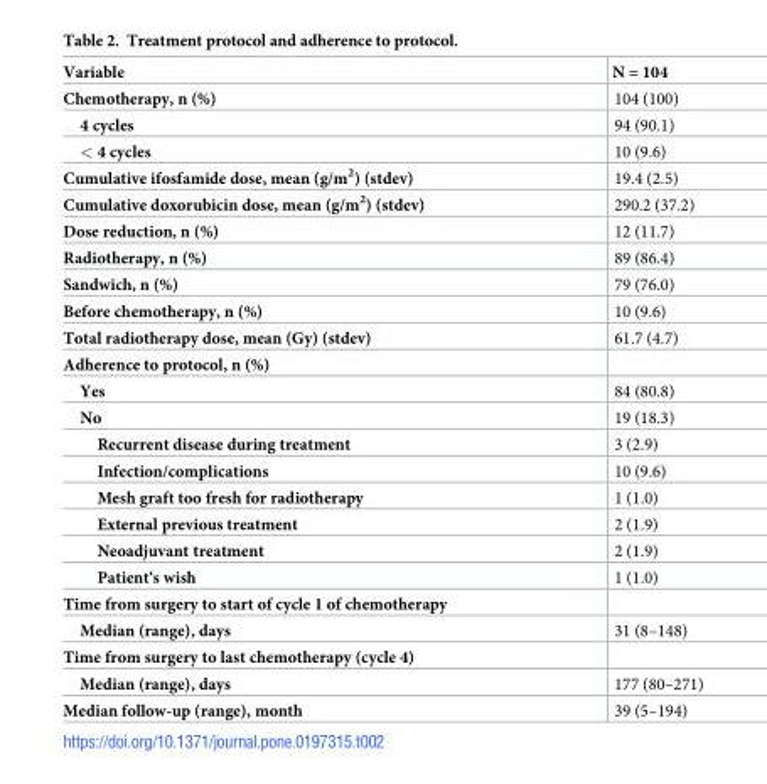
<table><thead><tr><td>Variable</td><td>N = 104</td></tr></thead><tbody><tr><td>Chemotherapy, n (%)</td><td>104 (100)</td></tr><tr><td>4 cycles</td><td>94 (90.1)</td></tr><tr><td>&lt; 4 cycles</td><td>10 (9.6)</td></tr><tr><td>Cumulative ifosfamide dose, mean (g/m<sup>2</sup>) (stdev)</td><td>19.4 (2.5)</td></tr><tr><td>Cumulative doxorubicin dose, mean (g/m<sup>2</sup>) (stdev)</td><td>290.2 (37.2)</td></tr><tr><td>Dose reduction, n (%)</td><td>12 (11.7)</td></tr><tr><td>Radiotherapy, n (%)</td><td>89 (86.4)</td></tr><tr><td>Sandwich, n (%)</td><td>79 (76.0)</td></tr><tr><td>Before chemotherapy, n (%)</td><td>10 (9.6)</td></tr><tr><td>Total radiotherapy dose, mean (Gy) (stdev)</td><td>61.7 (4.7)</td></tr><tr><td colspan="2">Adherence to protocol, n (%)</td></tr><tr><td>Yes</td><td>84 (80.8)</td></tr><tr><td>No</td><td>19 (18.3)</td></tr><tr><td>Recurrent disease during treatment</td><td>3 (2.9)</td></tr><tr><td>Infection/complications</td><td>10 (9.6)</td></tr><tr><td>Mesh graft too fresh for radiotherapy</td><td>1 (1.0)</td></tr><tr><td>External previous treatment</td><td>2 (1.9)</td></tr><tr><td>Neoadjuvant treatment</td><td>2 (1.9)</td></tr><tr><td>Patient‘s wish</td><td>1 (1.0)</td></tr><tr><td colspan="2">Time from surgery to start of cycle 1 of chemotherapy</td></tr><tr><td>Median (range), days</td><td>31 (8–148)</td></tr><tr><td colspan="2">Time from surgery to last chemotherapy (cycle 4)</td></tr><tr><td>Median (range), days</td><td>177 (80–271)</td></tr><tr><td>Median follow-up (range), month</td><td>39 (5–194)</td></tr></tbody></table>